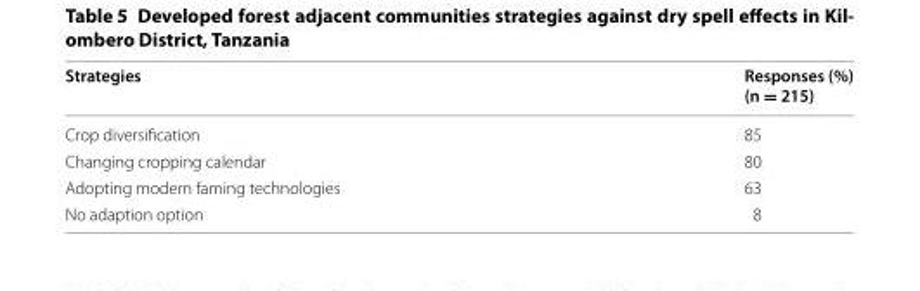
<table><thead><tr><td>Strategies</td><td>Responses (%) (n = 215)</td></tr></thead><tbody><tr><td>Crop diversification</td><td>85</td></tr><tr><td>Changing cropping calendar</td><td>80</td></tr><tr><td>Adopting modern faming technologies</td><td>63</td></tr><tr><td>No adaption option</td><td>8</td></tr></tbody></table>